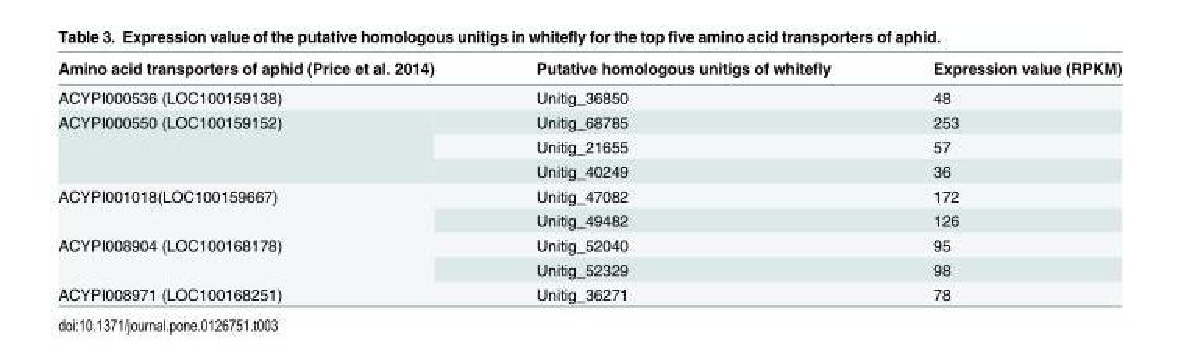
<table><thead><tr><td>Amino acid transporters of aphid (Price et al. 2014)</td><td>Putative homologous unitigs of whitefly</td><td>Expression value (RPKM)</td></tr></thead><tbody><tr><td>ACYPI000536 (LOC100159138)</td><td>Unitig_36850</td><td>48</td></tr><tr><td rowspan="3">ACYPI000550 (LOC100159152)</td><td>Unitig_68785</td><td>253</td></tr><tr><td>Unitig_21655</td><td>57</td></tr><tr><td>Unitig_40249</td><td>36</td></tr><tr><td rowspan="2">ACYPI001018(LOC100159667)</td><td>Unitig_47082</td><td>172</td></tr><tr><td>Unitig_49482</td><td>126</td></tr><tr><td rowspan="2">ACYPI008904 (LOC100168178)</td><td>Unitig_52040</td><td>95</td></tr><tr><td>Unitig_52329</td><td>98</td></tr><tr><td>ACYPI008971 (LOC100168251)</td><td>Unitig_36271</td><td>78</td></tr></tbody></table>